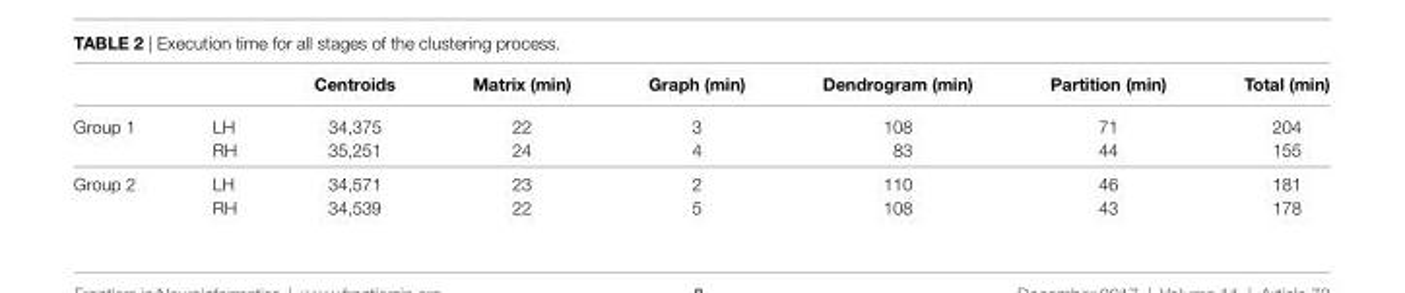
<table><thead><tr><td></td><td></td><td>centroids</td><td>Matrix (min)</td><td>graph (min)</td><td>Dendrogram (min)</td><td>Partition (min)</td><td>Total (min)</td></tr></thead><tbody><tr><td rowspan="2">Group 1</td><td>LH</td><td>34,375</td><td>22</td><td>3</td><td>108</td><td>71</td><td>204</td></tr><tr><td>RH</td><td>35,251</td><td>24</td><td>4</td><td>83</td><td>44</td><td>155</td></tr><tr><td rowspan="2">Group 2</td><td>LH</td><td>34,571</td><td>23</td><td>2</td><td>110</td><td>46</td><td>181</td></tr><tr><td>RH</td><td>34,539</td><td>22</td><td>5</td><td>108</td><td>43</td><td>178</td></tr></tbody></table>